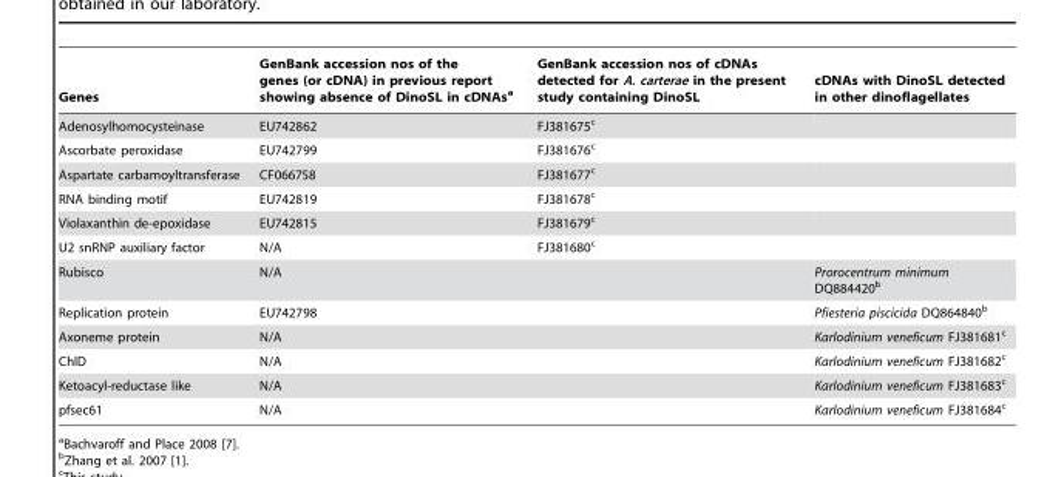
<table><thead><tr><td>Genes</td><td>GenBank accession nos of the genes (or cDNA) in previous report showing absence of DinoSL in cDNAs<sup>a</sup></td><td>GenBank accession nos of cDNAs detected for A. carterae in the present study containing DinoSL</td><td>cDNAs with DinoSL detected in other dinoflagellates</td></tr></thead><tbody><tr><td>Adenosylhomocysteinase</td><td>EU742862</td><td>FJ381675<sup>c</sup></td><td></td></tr><tr><td>Ascorbate peroxidase</td><td>EU742799</td><td>FJ381676<sup>c</sup></td><td></td></tr><tr><td>Aspartate carbamoyltransferase</td><td>CF066758</td><td>FJ381677<sup>c</sup></td><td></td></tr><tr><td>RNA binding motif</td><td>EU742819</td><td>FJ381678<sup>c</sup></td><td></td></tr><tr><td>Violaxanthin de-epoxidase</td><td>EU742815</td><td>FJ381679<sup>c</sup></td><td></td></tr><tr><td>U2 snRNP auxiliary factor</td><td>N/A</td><td>FJ381680<sup>c</sup></td><td></td></tr><tr><td>Rubisco</td><td>N/A</td><td></td><td>Prorocentrum minimum DQ884420<sup>b</sup></td></tr><tr><td>Replication protein</td><td>EU742798</td><td></td><td>Pfiesteria piscicida DQ864840<sup>b</sup></td></tr><tr><td>Axoneme protein</td><td>N/A</td><td></td><td>Karlodinium veneficum FJ381681<sup>c</sup></td></tr><tr><td>ChlD</td><td>N/A</td><td></td><td>Karlodinium veneficum FJ381682<sup>c</sup></td></tr><tr><td>Ketoacyl-reductase like</td><td>N/A</td><td></td><td>Karlodinium veneficum FJ381683<sup>c</sup></td></tr><tr><td>pfsec61</td><td>N/A</td><td></td><td>Karlodinium veneficum FJ381684<sup>c</sup></td></tr></tbody></table>